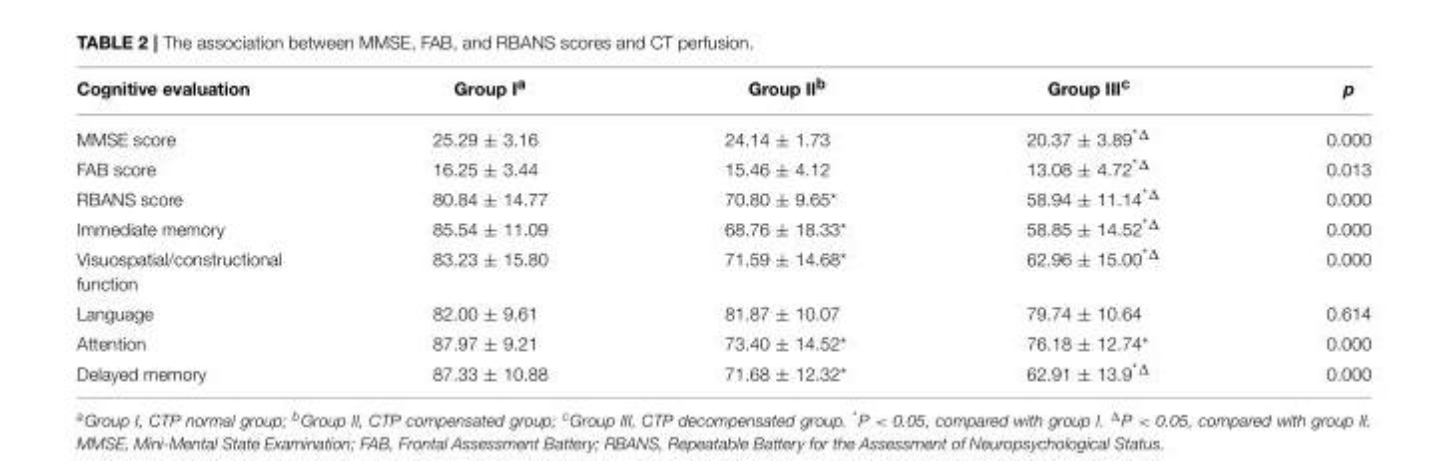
<table><thead><tr><td>Cognitive evaluation</td><td>Group I<sup>a</sup></td><td>Group II<sup>b</sup></td><td>Group III<sup>c</sup></td><td>p</td></tr></thead><tbody><tr><td>MMSE score</td><td>25.29 ± 3.16</td><td>24.14 ± 1.73</td><td>20.37 ± 3.89<sup>*Δ</sup></td><td>0.000</td></tr><tr><td>FAB score</td><td>16.25 ± 3.44</td><td>15.46 ± 4.12</td><td>13.08 ± 4.72<sup>*Δ</sup></td><td>0.013</td></tr><tr><td>RBANS score</td><td>80.84 ± 14.77</td><td>70.80 ± 9.65*</td><td>58.94 ± 11.14<sup>*Δ</sup></td><td>0.000</td></tr><tr><td>Immediate memory</td><td>85.54 ± 11.09</td><td>68.76 ± 18.33*</td><td>58.85 ± 14.52<sup>*Δ</sup></td><td>0.000</td></tr><tr><td>Visuospatial/constructional function</td><td>83.23 ± 15.80</td><td>71.59 ± 14.68*</td><td>62.96 ± 15.00<sup>*Δ</sup></td><td>0.000</td></tr><tr><td>Language</td><td>82.00 ± 9.61</td><td>81.87 ± 10.07</td><td>79.74 ± 10.64</td><td>0.614</td></tr><tr><td>Attention</td><td>87.97 ± 9.21</td><td>73.40 ± 14.52*</td><td>76.18 ± 12.74*</td><td>0.000</td></tr><tr><td>Delayed memory</td><td>87.33 ± 10.88</td><td>71.68 ± 12.32*</td><td>62.91 ± 13.9<sup>*Δ</sup></td><td>0.000</td></tr></tbody></table>